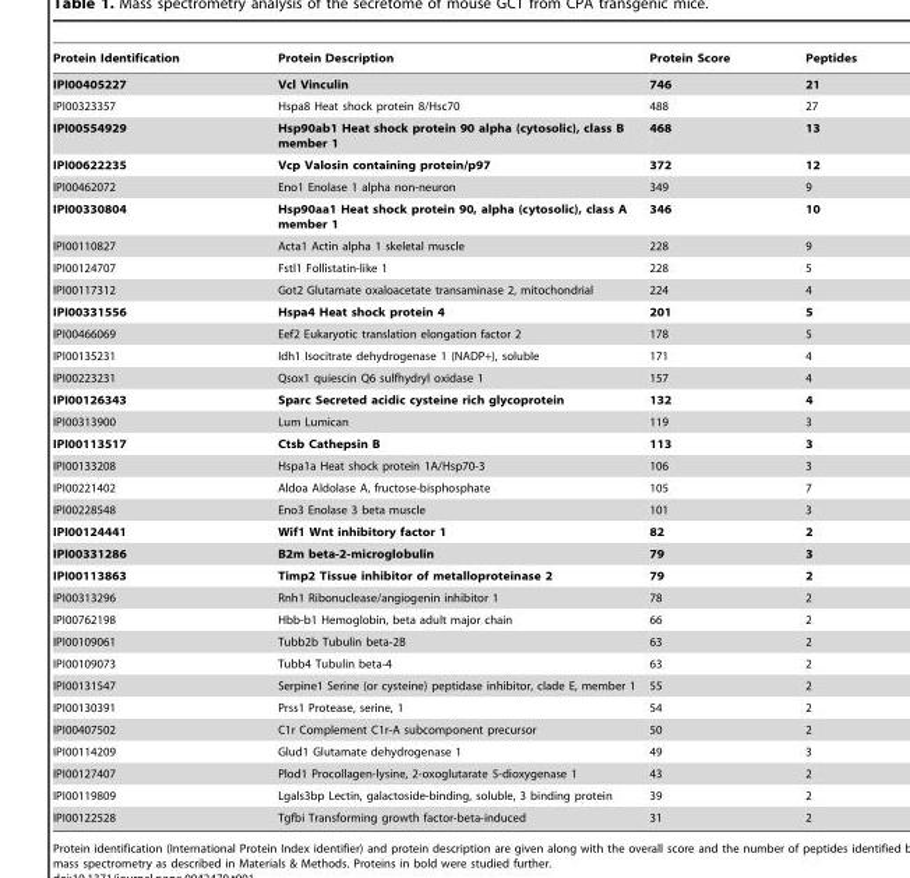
<table><thead><tr><td>Protein Identification</td><td>Protein Description</td><td>Protein Score</td><td>Peptides</td></tr></thead><tbody><tr><td>IPI00405227</td><td>Vcl Vinculin</td><td>746</td><td>21</td></tr><tr><td>IPI00323357</td><td>Hspa8 Heat shock protein 8/Hsc70</td><td>488</td><td>27</td></tr><tr><td>IPI00554929</td><td>Hsp90ab1 Heat shock protein 90 alpha (cytosolic), class B member 1</td><td>468</td><td>13</td></tr><tr><td>IPI00622235</td><td>Vcp Valosin containing protein/p97</td><td>372</td><td>12</td></tr><tr><td>IPI00462072</td><td>Eno1 Enolase 1 alpha non-neuron</td><td>349</td><td>9</td></tr><tr><td>IPI00330804</td><td>Hsp90aa1 Heat shock protein 90, alpha (cytosolic), class A member 1</td><td>346</td><td>10</td></tr><tr><td>IPI00110827</td><td>Acta1 Actin alpha 1 skeletal muscle</td><td>228</td><td>9</td></tr><tr><td>IPI00124707</td><td>Fstl1 Follistatin-like 1</td><td>228</td><td>5</td></tr><tr><td>IPI00117312</td><td>Got2 Glutamate oxaloacetate transaminase 2, mitochondrial</td><td>224</td><td>4</td></tr><tr><td>IPI00331556</td><td>Hspa4 Heat shock protein 4</td><td>201</td><td>5</td></tr><tr><td>IPI00466069</td><td>Eef2 Eukaryotic translation elongation factor 2</td><td>178</td><td>5</td></tr><tr><td>IPI00135231</td><td>Idh1 Isocitrate dehydrogenase 1 (NADP+), soluble</td><td>171</td><td>4</td></tr><tr><td>IPI00223231</td><td>Qsox1 quiescin Q6 sulfhydryl oxidase 1</td><td>157</td><td>4</td></tr><tr><td>IPI00126343</td><td>Sparc Secreted acidic cysteine rich glycoprotein</td><td>132</td><td>4</td></tr><tr><td>IPI00313900</td><td>Lum Lumican</td><td>119</td><td>3</td></tr><tr><td>IPI00113517</td><td>Ctsb Cathepsin B</td><td>113</td><td>3</td></tr><tr><td>IPI00133208</td><td>Hspa1a Heat shock protein 1A/Hsp70-3</td><td>106</td><td>3</td></tr><tr><td>IPI00221402</td><td>Aldoa Aldolase A, fructose-bisphosphate</td><td>105</td><td>7</td></tr><tr><td>IPI00228548</td><td>Eno3 Enolase 3 beta muscle</td><td>101</td><td>3</td></tr><tr><td>IPI00124441</td><td>Wif1 Wnt inhibitory factor 1</td><td>82</td><td>2</td></tr><tr><td>IPI00331286</td><td>B2m beta-2-microglobulin</td><td>79</td><td>3</td></tr><tr><td>IPI00113863</td><td>Timp2 Tissue inhibitor of metalloproteinase 2</td><td>79</td><td>2</td></tr><tr><td>IPI00313296</td><td>Rnh1 Ribonuclease/angiogenin inhibitor 1</td><td>78</td><td>2</td></tr><tr><td>IPI00762198</td><td>Hbb-b1 Hemoglobin, beta adult major chain</td><td>66</td><td>2</td></tr><tr><td>IPI00109061</td><td>Tubb2b Tubulin beta-2B</td><td>63</td><td>2</td></tr><tr><td>IPI00109073</td><td>Tubb4 Tubulin beta-4</td><td>63</td><td>2</td></tr><tr><td>IPI00131547</td><td>Serpine1 Serine (or cysteine) peptidase inhibitor, clade E, member 1</td><td>55</td><td>2</td></tr><tr><td>IPI00130391</td><td>Prss1 Protease, serine, 1</td><td>54</td><td>2</td></tr><tr><td>IPI00407502</td><td>C1r Complement C1r-A subcomponent precursor</td><td>50</td><td>2</td></tr><tr><td>IPI00114209</td><td>Glud1 Glutamate dehydrogenase 1</td><td>49</td><td>3</td></tr><tr><td>IPI00127407</td><td>Plod1 Procollagen-lysine, 2-oxoglutarate 5-dioxygenase 1</td><td>43</td><td>2</td></tr><tr><td>IPI00119809</td><td>Lgals3bp Lectin, galactoside-binding, soluble, 3 binding protein</td><td>39</td><td>2</td></tr><tr><td>IPI00122528</td><td>Tgfbi Transforming growth factor-beta-induced</td><td>31</td><td>2</td></tr></tbody></table>